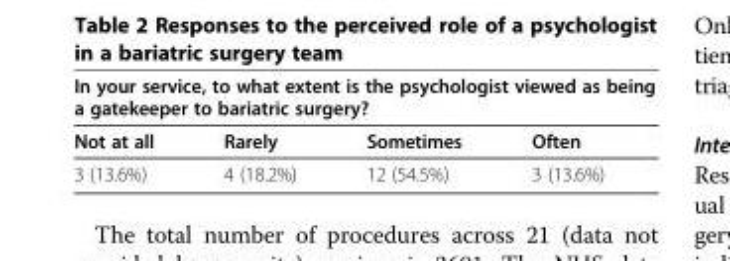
<table><thead><tr><td colspan="4">In your service, to what extent is the psychologist viewed as being a gatekeeper to bariatric surgery?</td></tr><tr><td>Not at all</td><td>Rarely</td><td>Sometimes</td><td>Often</td></tr></thead><tbody><tr><td>3 (13.6%)</td><td>4 (18.2%)</td><td>12 (54.5%)</td><td>3 (13.6%)</td></tr></tbody></table>